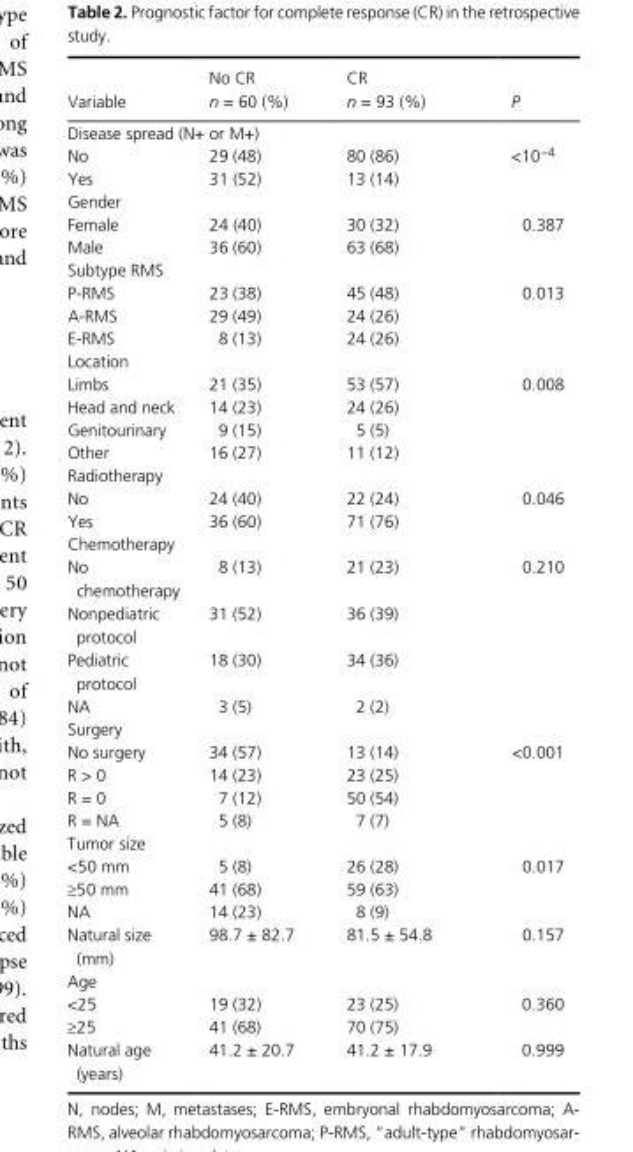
<table><thead><tr><td>Variable</td><td>No CR n = 60 (%)</td><td>CR n = 93 (%)</td><td>P</td></tr></thead><tbody><tr><td colspan="4">Disease spread (N+ or M+)</td></tr><tr><td>No</td><td>29 (48)</td><td>80 (86)</td><td rowspan="2">&lt;10<sup>−4</sup></td></tr><tr><td>Yes</td><td>31 (52)</td><td>13 (14)</td></tr><tr><td colspan="4">Gender</td></tr><tr><td>Female</td><td>24 (40)</td><td>30 (32)</td><td rowspan="2">0.387</td></tr><tr><td>Male</td><td>36 (60)</td><td>63 (68)</td></tr><tr><td colspan="4">Subtype RMS</td></tr><tr><td>P- RMS</td><td>23 (38)</td><td>45 (48)</td><td rowspan="3">0.013</td></tr><tr><td>A- RMS</td><td>29 (49)</td><td>24 (26)</td></tr><tr><td>E- RMS</td><td>8 (13)</td><td>24 (26)</td></tr><tr><td colspan="4">Location</td></tr><tr><td>Limbs</td><td>21 (35)</td><td>53 (57)</td><td rowspan="4">0.008</td></tr><tr><td>Head and neck</td><td>14 (23)</td><td>24 (26)</td></tr><tr><td>Genitourinary</td><td>9 (15)</td><td>5 (5)</td></tr><tr><td>Other</td><td>16 (27)</td><td>11 (12)</td></tr><tr><td colspan="4">Radiotherapy</td></tr><tr><td>No</td><td>24 (40)</td><td>22 (24)</td><td rowspan="2">0.046</td></tr><tr><td>Yes</td><td>36 (60)</td><td>71 (76)</td></tr><tr><td colspan="4">Chemotherapy</td></tr><tr><td>No chemotherapy</td><td>8 (13)</td><td>21 (23)</td><td rowspan="4">0.210</td></tr><tr><td>Nonpediatric protocol</td><td>31 (52)</td><td>36 (39)</td></tr><tr><td>Pediatric protocol</td><td>18 (30)</td><td>34 (36)</td></tr><tr><td>NA</td><td>3 (5)</td><td>2 (2)</td></tr><tr><td colspan="4">Surgery</td></tr><tr><td>No surgery</td><td>34 (57)</td><td>13 (14)</td><td rowspan="4">&lt;0.001</td></tr><tr><td>R &gt; 0</td><td>14 (23)</td><td>23 (25)</td></tr><tr><td>R = 0</td><td>7 (12)</td><td>50 (54)</td></tr><tr><td>R = NA</td><td>5 (8)</td><td>7 (7)</td></tr><tr><td colspan="4">Tumor size</td></tr><tr><td>&lt;50 mm</td><td>5 (8)</td><td>26 (28)</td><td rowspan="3">0.017</td></tr><tr><td>≥50 mm</td><td>41 (68)</td><td>59 (63)</td></tr><tr><td>NA</td><td>14 (23)</td><td>8 (9)</td></tr><tr><td>Natural size (mm)</td><td>98.7 ± 82.7</td><td>81.5 ± 54.8</td><td>0.157</td></tr><tr><td colspan="4">Age</td></tr><tr><td>&lt;25</td><td>19 (32)</td><td>23 (25)</td><td rowspan="2">0.360</td></tr><tr><td>≥25</td><td>41 (68)</td><td>70 (75)</td></tr><tr><td>Natural age (years)</td><td>41.2 ± 20.7</td><td>41.2 ± 17.9</td><td>0.999</td></tr></tbody></table>